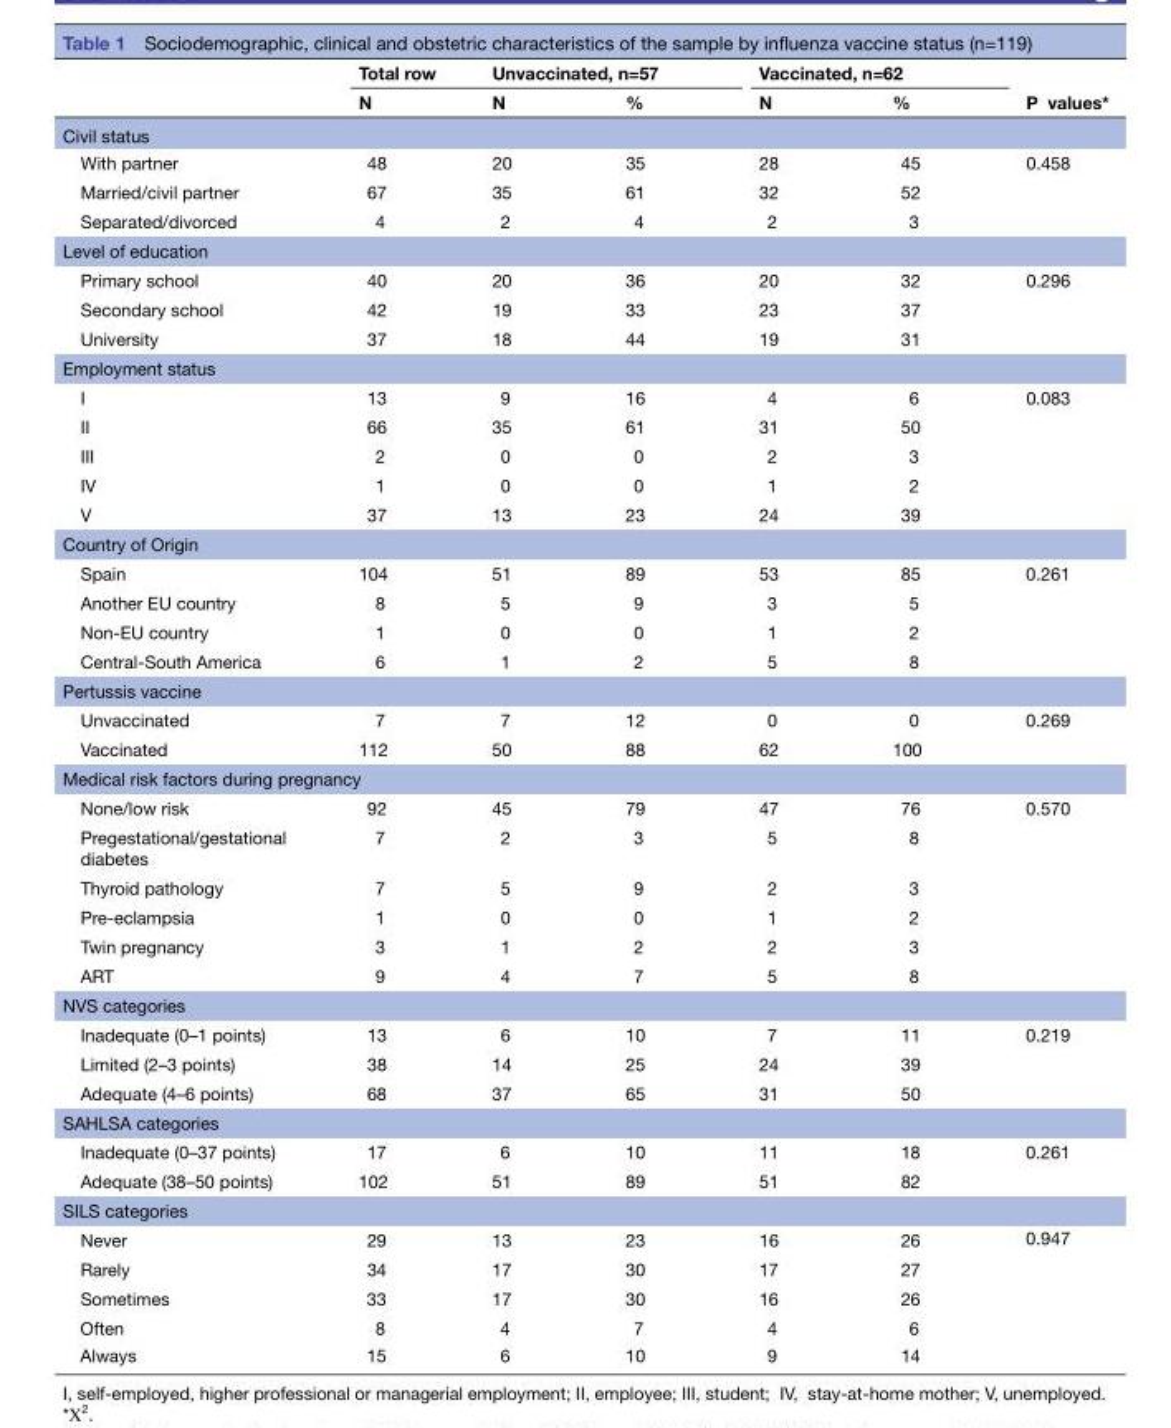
<table><thead><tr><td rowspan="2"></td><td rowspan="2">Total row N</td><td colspan="2">Unvaccinated, n=57</td><td colspan="2">Vaccinated, n=62</td><td rowspan="2">P values*</td></tr><tr><td>N</td><td>%</td><td>N</td><td>%</td></tr></thead><tbody><tr><td colspan="7">Civil status</td></tr><tr><td>With partner</td><td>48</td><td>20</td><td>35</td><td>28</td><td>45</td><td rowspan="3">0.458</td></tr><tr><td>Married/civil partner</td><td>67</td><td>35</td><td>61</td><td>32</td><td>52</td></tr><tr><td>Separated/divorced</td><td>4</td><td>2</td><td>4</td><td>2</td><td>3</td></tr><tr><td colspan="7">Level of education</td></tr><tr><td>Primary school</td><td>40</td><td>20</td><td>36</td><td>20</td><td>32</td><td rowspan="3">0.296</td></tr><tr><td>Secondary school</td><td>42</td><td>19</td><td>33</td><td>23</td><td>37</td></tr><tr><td>University</td><td>37</td><td>18</td><td>44</td><td>19</td><td>31</td></tr><tr><td colspan="7">Employment status</td></tr><tr><td>I</td><td>13</td><td>9</td><td>16</td><td>4</td><td>6</td><td rowspan="5">0.083</td></tr><tr><td>II</td><td>66</td><td>35</td><td>61</td><td>31</td><td>50</td></tr><tr><td>III</td><td>2</td><td>0</td><td>0</td><td>2</td><td>3</td></tr><tr><td>IV</td><td>1</td><td>0</td><td>0</td><td>1</td><td>2</td></tr><tr><td>V</td><td>37</td><td>13</td><td>23</td><td>24</td><td>39</td></tr><tr><td colspan="7">Country of Origin</td></tr><tr><td>Spain</td><td>104</td><td>51</td><td>89</td><td>53</td><td>85</td><td rowspan="4">0.261</td></tr><tr><td>Another EU country</td><td>8</td><td>5</td><td>9</td><td>3</td><td>5</td></tr><tr><td>Non-EU country</td><td>1</td><td>0</td><td>0</td><td>1</td><td>2</td></tr><tr><td>Central-South America</td><td>6</td><td>1</td><td>2</td><td>5</td><td>8</td></tr><tr><td colspan="7">Pertussis vaccine</td></tr><tr><td>Unvaccinated</td><td>7</td><td>7</td><td>12</td><td>0</td><td>0</td><td rowspan="2">0.269</td></tr><tr><td>Vaccinated</td><td>112</td><td>50</td><td>88</td><td>62</td><td>100</td></tr><tr><td colspan="7">Medical risk factors during pregnancy</td></tr><tr><td>None/low risk</td><td>92</td><td>45</td><td>79</td><td>47</td><td>76</td><td rowspan="6">0.570</td></tr><tr><td>Pregestational/gestational diabetes</td><td>7</td><td>2</td><td>3</td><td>5</td><td>8</td></tr><tr><td>Thyroid pathology</td><td>7</td><td>5</td><td>9</td><td>2</td><td>3</td></tr><tr><td>Pre-eclampsia</td><td>1</td><td>0</td><td>0</td><td>1</td><td>2</td></tr><tr><td>Twin pregnancy</td><td>3</td><td>1</td><td>2</td><td>2</td><td>3</td></tr><tr><td>ART</td><td>9</td><td>4</td><td>7</td><td>5</td><td>8</td></tr><tr><td colspan="7">NVS categories</td></tr><tr><td>Inadequate (0–1 points)</td><td>13</td><td>6</td><td>10</td><td>7</td><td>11</td><td rowspan="3">0.219</td></tr><tr><td>Limited (2–3 points)</td><td>38</td><td>14</td><td>25</td><td>24</td><td>39</td></tr><tr><td>Adequate (4–6 points)</td><td>68</td><td>37</td><td>65</td><td>31</td><td>50</td></tr><tr><td colspan="7">SAHLSA categories</td></tr><tr><td>Inadequate (0–37 points)</td><td>17</td><td>6</td><td>10</td><td>11</td><td>18</td><td rowspan="2">0.261</td></tr><tr><td>Adequate (38–50 points)</td><td>102</td><td>51</td><td>89</td><td>51</td><td>82</td></tr><tr><td colspan="7">SILS categories</td></tr><tr><td>Never</td><td>29</td><td>13</td><td>23</td><td>16</td><td>26</td><td rowspan="5">0.947</td></tr><tr><td>Rarely</td><td>34</td><td>17</td><td>30</td><td>17</td><td>27</td></tr><tr><td>Sometimes</td><td>33</td><td>17</td><td>30</td><td>16</td><td>26</td></tr><tr><td>Often</td><td>8</td><td>4</td><td>7</td><td>4</td><td>6</td></tr><tr><td>Always</td><td>15</td><td>6</td><td>10</td><td>9</td><td>14</td></tr></tbody></table>